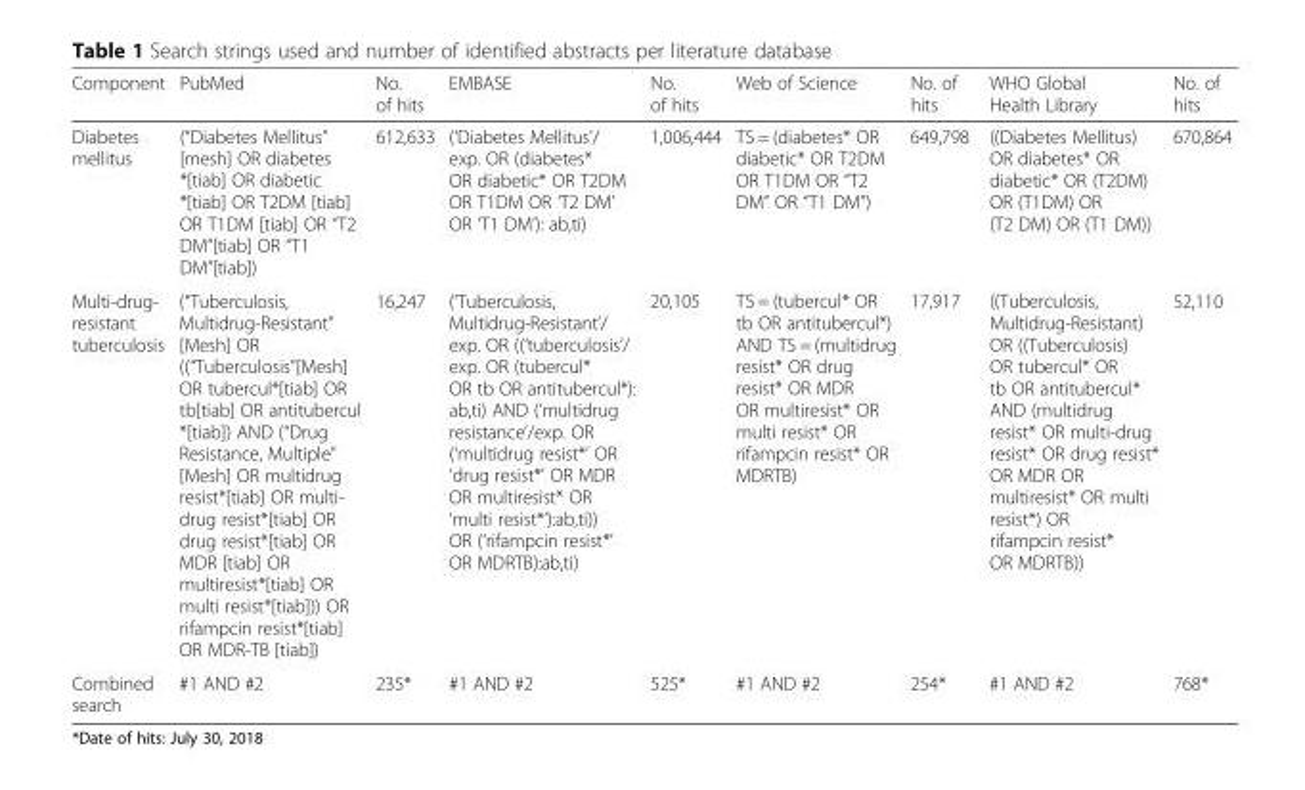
<table><thead><tr><td>Component</td><td>PubMed</td><td>No. of hits</td><td>EMBASE</td><td>No. of hits</td><td>Web of Science</td><td>No. of hits</td><td>WHO Global Health Library</td><td>No. of hits</td></tr></thead><tbody><tr><td>Diabetes mellitus</td><td>(“Diabetes Mellitus” [mesh] OR diabetes *[tiab] OR diabetic *[tiab] OR T2DM [tiab] OR T1DM [tiab] OR “T2 DM”[tiab] OR “T1 DM”[tiab])</td><td>612,633</td><td>(‘Diabetes Mellitus’/ exp. OR (diabetes* OR diabetic* OR T2DM OR T1DM OR ‘T2 DM’ OR ‘T1 DM’): ab,ti)</td><td>1,006,444</td><td>TS = (diabetes* OR diabetic* OR T2DM OR T1DM OR “T2 DM” OR “T1 DM”)</td><td>649,798</td><td>((Diabetes Mellitus) OR diabetes* OR diabetic* OR (T2DM) OR (T1DM) OR (T2 DM) OR (T1 DM))</td><td>670,864</td></tr><tr><td>Multi-drug- resistant tuberculosis</td><td>(“Tuberculosis, Multidrug-Resistant” [Mesh] OR ((“Tuberculosis”[Mesh] OR tubercul*[tiab] OR tb[tiab] OR antitubercul *[tiab]) AND (“Drug Resistance, Multiple” [Mesh] OR multidrug resist*[tiab] OR multi- drug resist*[tiab] OR drug resist*[tiab] OR MDR [tiab] OR multiresist*[tiab] OR multi resist*[tiab])) OR rifampcin resist*[tiab] OR MDR-TB [tiab])</td><td>16,247</td><td>(‘Tuberculosis, Multidrug-Resistant’/ exp. OR ((‘tuberculosis’/ exp. OR (tubercul* OR tb OR antitubercul*): ab,ti) AND (‘multidrug resistance’/exp. OR (‘multidrug resist*’ OR ‘drug resist*’ OR MDR OR multiresist* OR ‘multi resist*’):ab,ti)) OR (‘rifampcin resist*’ OR MDRTB):ab,ti)</td><td>20,105</td><td>TS = (tubercul* OR tb OR antitubercul*) AND TS = (multidrug resist* OR drug resist* OR MDR OR multiresist* OR multi resist* OR rifampcin resist* OR MDRTB)</td><td>17,917</td><td>((Tuberculosis, Multidrug-Resistant) OR ((Tuberculosis) OR tubercul* OR tb OR antitubercul* AND (multidrug resist* OR multi-drug resist* OR drug resist* OR MDR OR multiresist* OR multi resist*) OR rifampcin resist* OR MDRTB))</td><td>52,110</td></tr><tr><td>Combined search</td><td>#1 AND #2</td><td>235*</td><td>#1 AND #2</td><td>525*</td><td>#1 AND #2</td><td>254*</td><td>#1 AND #2</td><td>768*</td></tr></tbody></table>